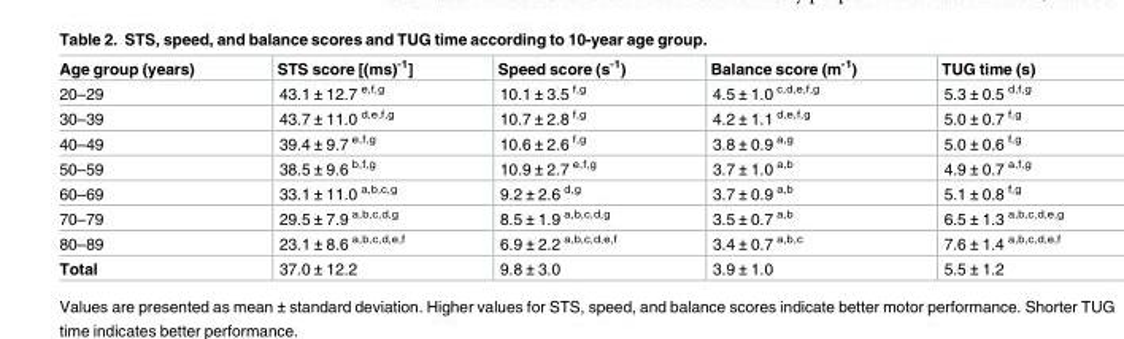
<table><thead><tr><td>Age group (years)</td><td>STS score [(ms)<sup>-1</sup>]</td><td>Speed score (s<sup>-1</sup>)</td><td>Balance score (m<sup>-1</sup>)</td><td>TUG time (s)</td></tr></thead><tbody><tr><td>20–29</td><td>43.1 ± 12.7 <sup>e,f,g</sup></td><td>10.1 ± 3.5 <sup>f,g</sup></td><td>4.5 ± 1.0 <sup>c,d,e,f,g</sup></td><td>5.3 ± 0.5 <sup>d,f,g</sup></td></tr><tr><td>30–39</td><td>43.7 ± 11.0 <sup>d,e,f,g</sup></td><td>10.7 ± 2.8 <sup>f,g</sup></td><td>4.2 ± 1.1 <sup>d,e,f,g</sup></td><td>5.0 ± 0.7 <sup>f,g</sup></td></tr><tr><td>40–49</td><td>39.4 ± 9.7 <sup>e,f,g</sup></td><td>10.6 ± 2.6 <sup>f,g</sup></td><td>3.8 ± 0.9 <sup>a,g</sup></td><td>5.0 ± 0.6 <sup>f,g</sup></td></tr><tr><td>50–59</td><td>38.5 ± 9.6 <sup>b,f,g</sup></td><td>10.9 ± 2.7 <sup>e,f,g</sup></td><td>3.7 ± 1.0 <sup>a,b</sup></td><td>4.9 ± 0.7 <sup>a,f,g</sup></td></tr><tr><td>60–69</td><td>33.1 ± 11.0 <sup>a,b,c,g</sup></td><td>9.2 ± 2.6 <sup>d,g</sup></td><td>3.7 ± 0.9 <sup>a,b</sup></td><td>5.1 ± 0.8 <sup>f,g</sup></td></tr><tr><td>70–79</td><td>29.5 ± 7.9 <sup>a,b,c,d,g</sup></td><td>8.5 ± 1.9 <sup>a,b,c,d,g</sup></td><td>3.5 ± 0.7 <sup>a,b</sup></td><td>6.5 ± 1.3 <sup>a,b,c,d,e,g</sup></td></tr><tr><td>80–89</td><td>23.1 ± 8.6 <sup>a,b,c,d,e,f</sup></td><td>6.9 ± 2.2 <sup>a,b,c,d,e,f</sup></td><td>3.4 ± 0.7 <sup>a,b,c</sup></td><td>7.6 ± 1.4 <sup>a,b,c,d,e,f</sup></td></tr><tr><td>Total</td><td>37.0 ± 12.2</td><td>9.8 ± 3.0</td><td>3.9 ± 1.0</td><td>5.5 ± 1.2</td></tr></tbody></table>